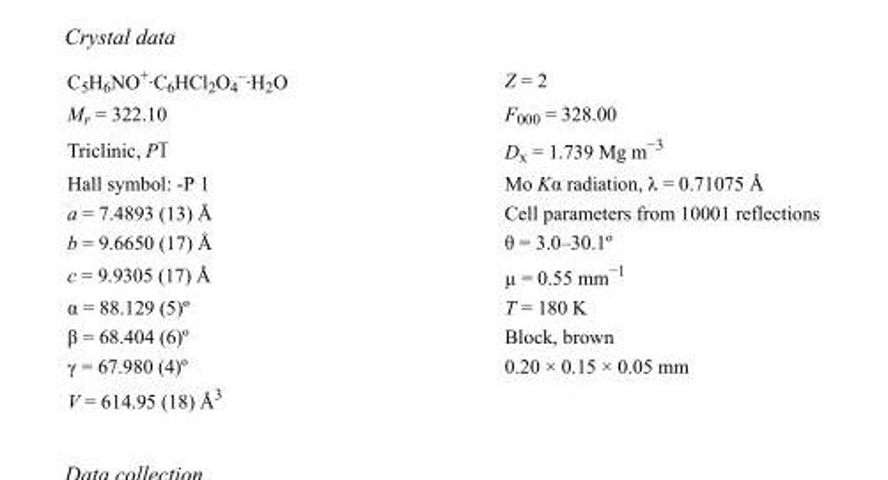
<table><tbody><tr><td>C<sub>5</sub>H<sub>6</sub>NO<sup>+</sup>·C<sub>6</sub>HCl<sub>2</sub>O<sub>4</sub> <sup>–</sup>·H<sub>2</sub>O</td><td>Z = 2</td></tr><tr><td>M<sub>r</sub> = 322.10</td><td>F000 = 328.00</td></tr><tr><td>Triclinic, P1</td><td>D<sub>x</sub> = 1.739 Mg m<sup>−3</sup></td></tr><tr><td>Hall symbol: -P 1</td><td>Mo Kα radiation, λ = 0.71075 Å</td></tr><tr><td>a = 7.4893 (13) Å</td><td>Cell parameters from 10001 reflections</td></tr><tr><td>b = 9.6650 (17) Å</td><td>θ = 3.0–30.1º</td></tr><tr><td>c = 9.9305 (17) Å</td><td>µ = 0.55 mm<sup>−1</sup></td></tr><tr><td>α = 88.129 (5)º</td><td>T = 180 K</td></tr><tr><td>β = 68.404 (6)º</td><td>Block, brown</td></tr><tr><td>γ = 67.980 (4)º</td><td>0.20 × 0.15 × 0.05 mm</td></tr><tr><td>V = 614.95 (18) Å<sup>3</sup></td><td></td></tr></tbody></table>